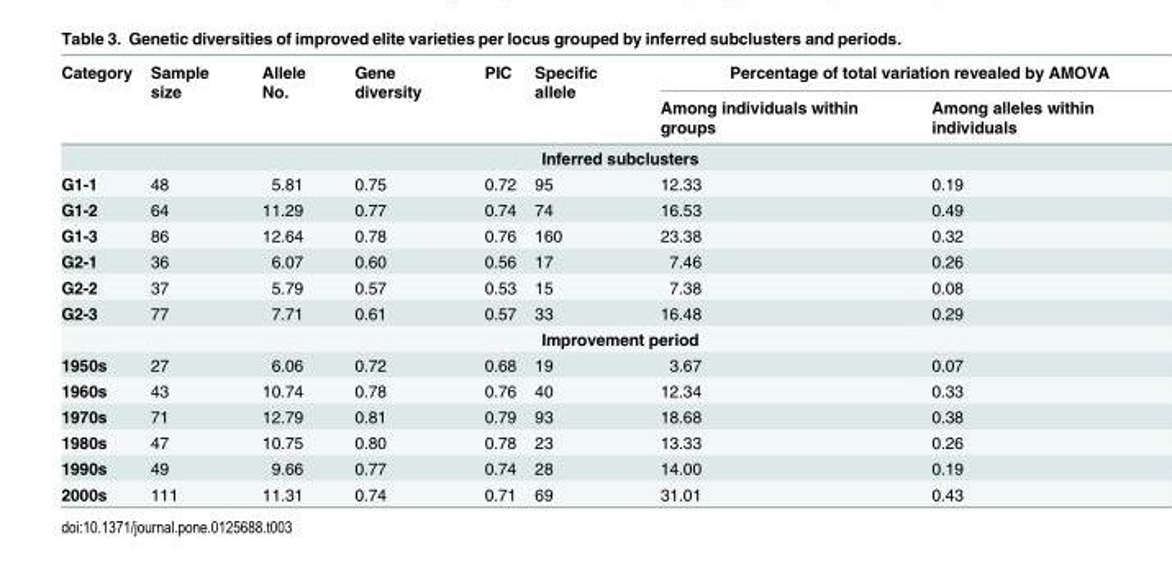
<table><thead><tr><td rowspan="2">Category</td><td rowspan="2">Sample size</td><td rowspan="2">Allele No.</td><td rowspan="2">Gene diversity</td><td rowspan="2">PIC</td><td rowspan="2">Specific allele</td><td colspan="2">Percentage of total variation revealed by AMOVA</td></tr><tr><td>Among individuals within groups</td><td>Among alleles within individuals</td></tr></thead><tbody><tr><td colspan="8">Inferred subclusters</td></tr><tr><td>G1-1</td><td>48</td><td>5.81</td><td>0.75</td><td>0.72</td><td>95</td><td>12.33</td><td>0.19</td></tr><tr><td>G1-2</td><td>64</td><td>11.29</td><td>0.77</td><td>0.74</td><td>74</td><td>16.53</td><td>0.49</td></tr><tr><td>G1-3</td><td>86</td><td>12.64</td><td>0.78</td><td>0.76</td><td>160</td><td>23.38</td><td>0.32</td></tr><tr><td>G2-1</td><td>36</td><td>6.07</td><td>0.60</td><td>0.56</td><td>17</td><td>7.46</td><td>0.26</td></tr><tr><td>G2-2</td><td>37</td><td>5.79</td><td>0.57</td><td>0.53</td><td>15</td><td>7.38</td><td>0.08</td></tr><tr><td>G2-3</td><td>77</td><td>7.71</td><td>0.61</td><td>0.57</td><td>33</td><td>16.48</td><td>0.29</td></tr><tr><td colspan="8">Improvement period</td></tr><tr><td>1950s</td><td>27</td><td>6.06</td><td>0.72</td><td>0.68</td><td>19</td><td>3.67</td><td>0.07</td></tr><tr><td>1960s</td><td>43</td><td>10.74</td><td>0.78</td><td>0.76</td><td>40</td><td>12.34</td><td>0.33</td></tr><tr><td>1970s</td><td>71</td><td>12.79</td><td>0.81</td><td>0.79</td><td>93</td><td>18.68</td><td>0.38</td></tr><tr><td>1980s</td><td>47</td><td>10.75</td><td>0.80</td><td>0.78</td><td>23</td><td>13.33</td><td>0.26</td></tr><tr><td>1990s</td><td>49</td><td>9.66</td><td>0.77</td><td>0.74</td><td>28</td><td>14.00</td><td>0.19</td></tr><tr><td>2000s</td><td>111</td><td>11.31</td><td>0.74</td><td>0.71</td><td>69</td><td>31.01</td><td>0.43</td></tr></tbody></table>